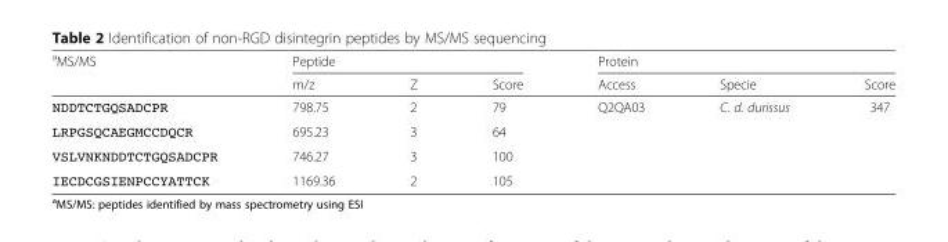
<table><thead><tr><td rowspan="2"><sup>a</sup>MS/MS</td><td colspan="3">Peptide</td><td colspan="3">Protein</td></tr><tr><td>m/z</td><td>Z</td><td>Score</td><td>Access</td><td>Specie</td><td>Score</td></tr></thead><tbody><tr><td>NDDTCTGQSADCPR</td><td>798.75</td><td>2</td><td>79</td><td rowspan="4">Q2QA03</td><td rowspan="4">C. d. durissus</td><td rowspan="4">347</td></tr><tr><td>LRPGSQCAEGMCCDQCR</td><td>695.23</td><td>3</td><td>64</td></tr><tr><td>VSLVNKNDDTCTGQSADCPR</td><td>746.27</td><td>3</td><td>100</td></tr><tr><td>IECDCGSIENPCCYATTCK</td><td>1169.36</td><td>2</td><td>105</td></tr></tbody></table>